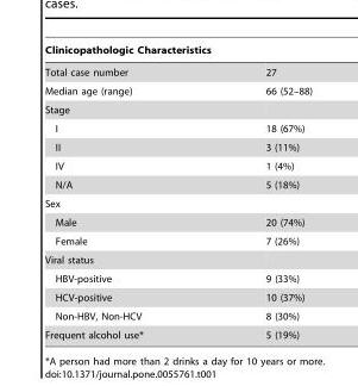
<table><thead><tr><td>Clinicopathologic Characteristics</td><td></td></tr></thead><tbody><tr><td>Total case number</td><td>27</td></tr><tr><td>Median age (range)</td><td>66 (52–88)</td></tr><tr><td colspan="2">Stage</td></tr><tr><td>I</td><td>18 (67%)</td></tr><tr><td>II</td><td>3 (11%)</td></tr><tr><td>IV</td><td>1 (4%)</td></tr><tr><td>N/A</td><td>5 (18%)</td></tr><tr><td colspan="2">Sex</td></tr><tr><td>Male</td><td>20 (74%)</td></tr><tr><td>Female</td><td>7 (26%)</td></tr><tr><td colspan="2">Viral status</td></tr><tr><td>HBV-positive</td><td>9 (33%)</td></tr><tr><td>HCV-positive</td><td>10 (37%)</td></tr><tr><td>Non-HBV, Non-HCV</td><td>8 (30%)</td></tr><tr><td>Frequent alcohol use*</td><td>5 (19%)</td></tr></tbody></table>